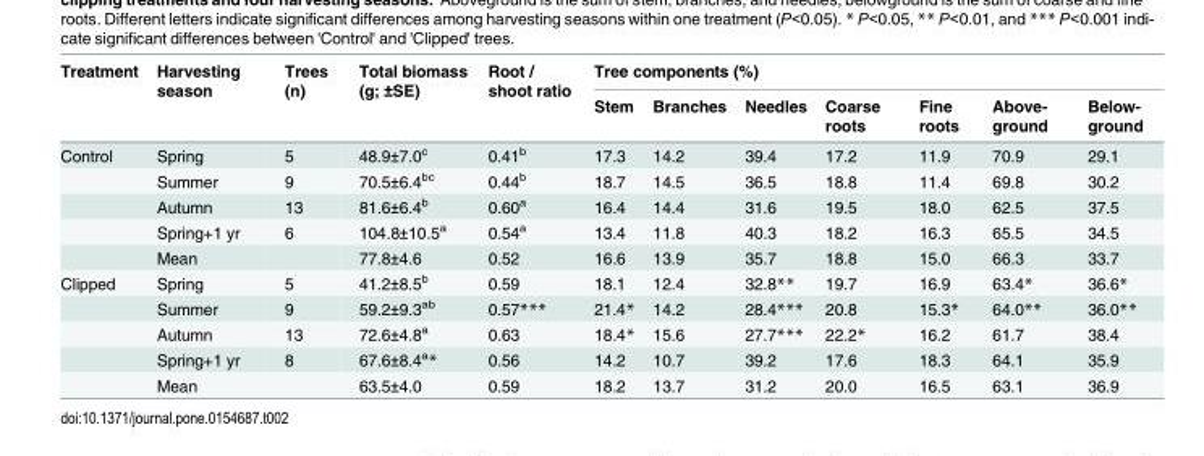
<table><thead><tr><td rowspan="2">Treatment</td><td rowspan="2">Harvesting season</td><td rowspan="2">Trees (n)</td><td rowspan="2">Total biomass (g; ±SE)</td><td rowspan="2">Root / shoot ratio</td><td colspan="7">Tree components (%)</td></tr><tr><td>Stem</td><td>Branches</td><td>Needles</td><td>Coarse roots</td><td>Fine roots</td><td>Above- ground</td><td>Below- ground</td></tr></thead><tbody><tr><td rowspan="5">Control</td><td>Spring</td><td>5</td><td>48.9±7.0<sup>c</sup></td><td>0.41<sup>b</sup></td><td>17.3</td><td>14.2</td><td>39.4</td><td>17.2</td><td>11.9</td><td>70.9</td><td>29.1</td></tr><tr><td>Summer</td><td>9</td><td>70.5±6.4<sup>bc</sup></td><td>0.44<sup>b</sup></td><td>18.7</td><td>14.5</td><td>36.5</td><td>18.8</td><td>11.4</td><td>69.8</td><td>30.2</td></tr><tr><td>Autumn</td><td>13</td><td>81.6±6.4<sup>b</sup></td><td>0.60<sup>a</sup></td><td>16.4</td><td>14.4</td><td>31.6</td><td>19.5</td><td>18.0</td><td>62.5</td><td>37.5</td></tr><tr><td>Spring+1 yr</td><td>6</td><td>104.8±10.5<sup>a</sup></td><td>0.54<sup>a</sup></td><td>13.4</td><td>11.8</td><td>40.3</td><td>18.2</td><td>16.3</td><td>65.5</td><td>34.5</td></tr><tr><td>Mean</td><td></td><td>77.8±4.6</td><td>0.52</td><td>16.6</td><td>13.9</td><td>35.7</td><td>18.8</td><td>15.0</td><td>66.3</td><td>33.7</td></tr><tr><td rowspan="5">Clipped</td><td>Spring</td><td>5</td><td>41.2±8.5<sup>b</sup></td><td>0.59</td><td>18.1</td><td>12.4</td><td>32.8**</td><td>19.7</td><td>16.9</td><td>63.4*</td><td>36.6*</td></tr><tr><td>Summer</td><td>9</td><td>59.2±9.3<sup>ab</sup></td><td>0.57***</td><td>21.4*</td><td>14.2</td><td>28.4***</td><td>20.8</td><td>15.3*</td><td>64.0**</td><td>36.0**</td></tr><tr><td>Autumn</td><td>13</td><td>72.6±4.8<sup>a</sup></td><td>0.63</td><td>18.4*</td><td>15.6</td><td>27.7***</td><td>22.2*</td><td>16.2</td><td>61.7</td><td>38.4</td></tr><tr><td>Spring+1 yr</td><td>8</td><td>67.6±8.4<sup>a</sup>*</td><td>0.56</td><td>14.2</td><td>10.7</td><td>39.2</td><td>17.6</td><td>18.3</td><td>64.1</td><td>35.9</td></tr><tr><td>Mean</td><td></td><td>63.5±4.0</td><td>0.59</td><td>18.2</td><td>13.7</td><td>31.2</td><td>20.0</td><td>16.5</td><td>63.1</td><td>36.9</td></tr></tbody></table>